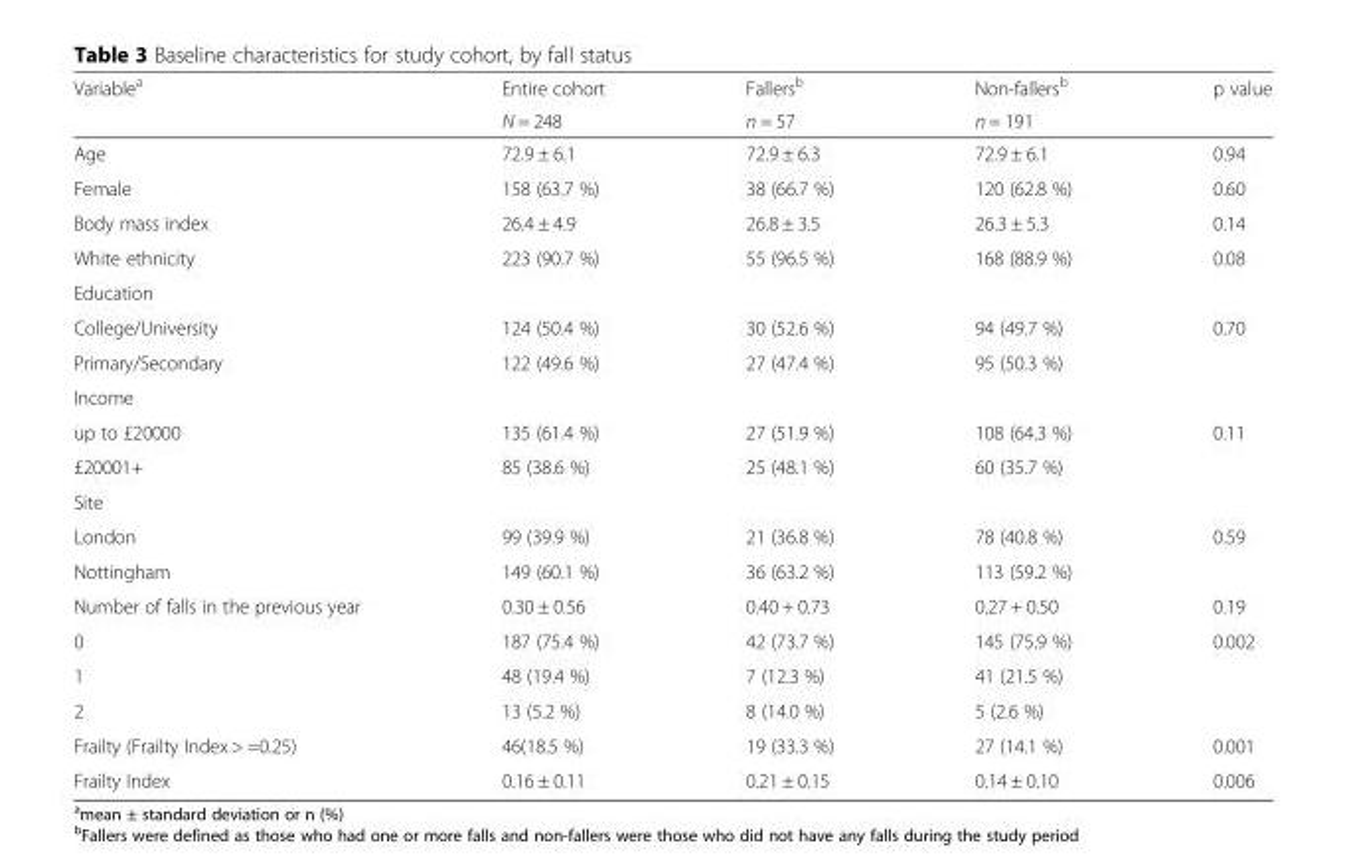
<table><thead><tr><td rowspan="2">Variable<sup>a</sup></td><td rowspan="2">Entire cohort N = 248</td><td rowspan="2">Fallers<sup>b</sup> n = 57</td><td rowspan="2">Non-fallers<sup>b</sup> n = 191</td><td rowspan="2">p value</td></tr><tr></tr></thead><tbody><tr><td>Age</td><td>72.9 ± 6.1</td><td>72.9 ± 6.3</td><td>72.9 ± 6.1</td><td>0.94</td></tr><tr><td>Female</td><td>158 (63.7 %)</td><td>38 (66.7 %)</td><td>120 (62.8 %)</td><td>0.60</td></tr><tr><td>Body mass index</td><td>26.4 ± 4.9</td><td>26.8 ± 3.5</td><td>26.3 ± 5.3</td><td>0.14</td></tr><tr><td>White ethnicity</td><td>223 (90.7 %)</td><td>55 (96.5 %)</td><td>168 (88.9 %)</td><td>0.08</td></tr><tr><td colspan="5">Education</td></tr><tr><td>College/University</td><td>124 (50.4 %)</td><td>30 (52.6 %)</td><td>94 (49.7 %)</td><td>0.70</td></tr><tr><td>Primary/Secondary</td><td>122 (49.6 %)</td><td>27 (47.4 %)</td><td>95 (50.3 %)</td><td></td></tr><tr><td colspan="5">Income</td></tr><tr><td>up to £20000</td><td>135 (61.4 %)</td><td>27 (51.9 %)</td><td>108 (64.3 %)</td><td>0.11</td></tr><tr><td>£20001+</td><td>85 (38.6 %)</td><td>25 (48.1 %)</td><td>60 (35.7 %)</td><td></td></tr><tr><td colspan="5">Site</td></tr><tr><td>London</td><td>99 (39.9 %)</td><td>21 (36.8 %)</td><td>78 (40.8 %)</td><td>0.59</td></tr><tr><td>Nottingham</td><td>149 (60.1 %)</td><td>36 (63.2 %)</td><td>113 (59.2 %)</td><td></td></tr><tr><td>Number of falls in the previous year</td><td>0.30 ± 0.56</td><td>0.40 + 0.73</td><td>0.27 + 0.50</td><td>0.19</td></tr><tr><td>0</td><td>187 (75.4 %)</td><td>42 (73.7 %)</td><td>145 (75.9 %)</td><td>0.002</td></tr><tr><td>1</td><td>48 (19.4 %)</td><td>7 (12.3 %)</td><td>41 (21.5 %)</td><td></td></tr><tr><td>2</td><td>13 (5.2 %)</td><td>8 (14.0 %)</td><td>5 (2.6 %)</td><td></td></tr><tr><td>Frailty (Frailty Index &gt; =0.25)</td><td>46(18.5 %)</td><td>19 (33.3 %)</td><td>27 (14.1 %)</td><td>0.001</td></tr><tr><td>Frailty Index</td><td>0.16 ± 0.11</td><td>0.21 ± 0.15</td><td>0.14 ± 0.10</td><td>0.006</td></tr></tbody></table>